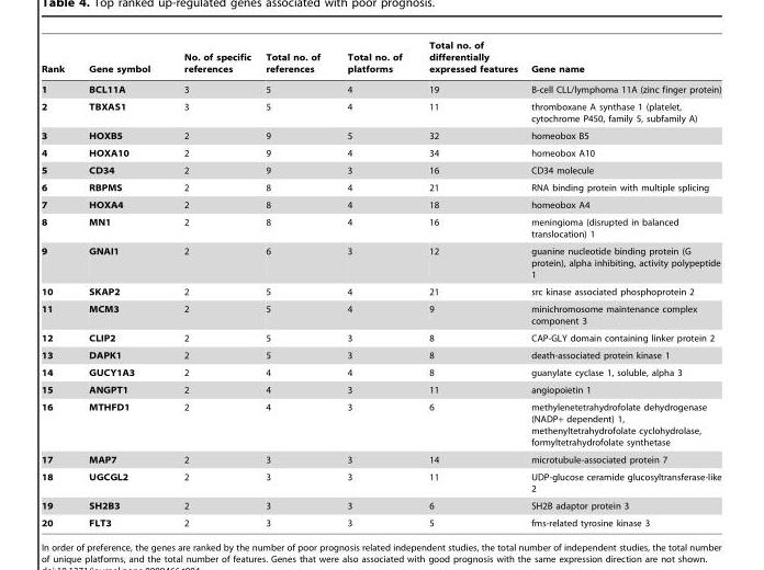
<table><thead><tr><td>Rank</td><td>Gene symbol</td><td>No. of specific references</td><td>Total no. of references</td><td>Total no. of platforms</td><td>Total no. of differentially expressed features</td><td>Gene name</td></tr></thead><tbody><tr><td>1</td><td>BCL11A</td><td>3</td><td>5</td><td>4</td><td>19</td><td>B-cell CLL/lymphoma 11A (zinc finger protein)</td></tr><tr><td>2</td><td>TBXAS1</td><td>3</td><td>5</td><td>4</td><td>11</td><td>thromboxane A synthase 1 (platelet, cytochrome P450, family 5, subfamily A)</td></tr><tr><td>3</td><td>HOXB5</td><td>2</td><td>9</td><td>5</td><td>32</td><td>homeobox B5</td></tr><tr><td>4</td><td>HOXA10</td><td>2</td><td>9</td><td>4</td><td>34</td><td>homeobox A10</td></tr><tr><td>5</td><td>CD34</td><td>2</td><td>9</td><td>3</td><td>16</td><td>CD34 molecule</td></tr><tr><td>6</td><td>RBPMS</td><td>2</td><td>8</td><td>4</td><td>21</td><td>RNA binding protein with multiple splicing</td></tr><tr><td>7</td><td>HOXA4</td><td>2</td><td>8</td><td>4</td><td>18</td><td>homeobox A4</td></tr><tr><td>8</td><td>MN1</td><td>2</td><td>8</td><td>4</td><td>16</td><td>meningioma (disrupted in balanced translocation) 1</td></tr><tr><td>9</td><td>GNAI1</td><td>2</td><td>6</td><td>3</td><td>12</td><td>guanine nucleotide binding protein (G protein), alpha inhibiting, activity polypeptide 1</td></tr><tr><td>10</td><td>SKAP2</td><td>2</td><td>5</td><td>4</td><td>21</td><td>src kinase associated phosphoprotein 2</td></tr><tr><td>11</td><td>MCM3</td><td>2</td><td>5</td><td>4</td><td>9</td><td>minichromosome maintenance complex component 3</td></tr><tr><td>12</td><td>CLIP2</td><td>2</td><td>5</td><td>3</td><td>8</td><td>CAP-GLY domain containing linker protein 2</td></tr><tr><td>13</td><td>DAPK1</td><td>2</td><td>5</td><td>3</td><td>8</td><td>death-associated protein kinase 1</td></tr><tr><td>14</td><td>GUCY1A3</td><td>2</td><td>4</td><td>4</td><td>8</td><td>guanylate cyclase 1, soluble, alpha 3</td></tr><tr><td>15</td><td>ANGPT1</td><td>2</td><td>4</td><td>3</td><td>11</td><td>angiopoietin 1</td></tr><tr><td>16</td><td>MTHFD1</td><td>2</td><td>4</td><td>3</td><td>6</td><td>methylenetetrahydrofolate dehydrogenase (NADP+ dependent) 1, methenyltetrahydrofolate cyclohydrolase, formyltetrahydrofolate synthetase</td></tr><tr><td>17</td><td>MAP7</td><td>2</td><td>3</td><td>3</td><td>14</td><td>microtubule-associated protein 7</td></tr><tr><td>18</td><td>UGCGL2</td><td>2</td><td>3</td><td>3</td><td>11</td><td>UDP-glucose ceramide glucosyltransferase-like 2</td></tr><tr><td>19</td><td>SH2B3</td><td>2</td><td>3</td><td>3</td><td>6</td><td>SH2B adaptor protein 3</td></tr><tr><td>20</td><td>FLT3</td><td>2</td><td>3</td><td>3</td><td>5</td><td>fms-related tyrosine kinase 3</td></tr></tbody></table>